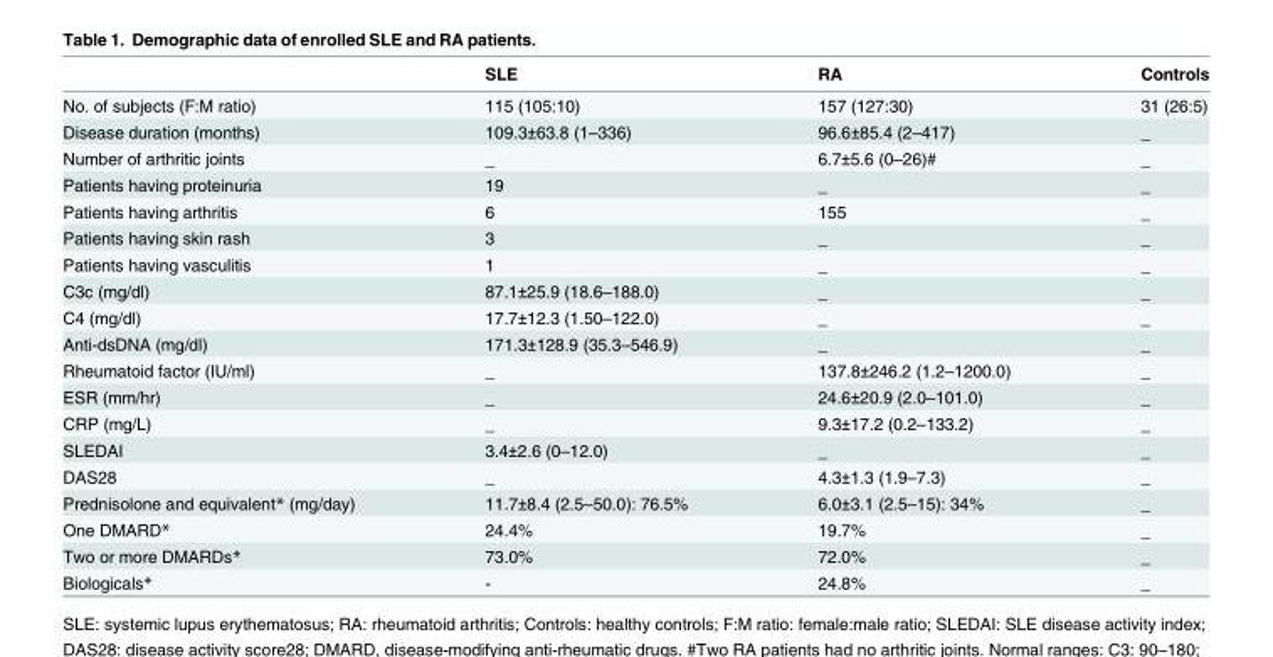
<table><thead><tr><td></td><td>SLE</td><td>RA</td><td>Controls</td></tr></thead><tbody><tr><td>No. of subjects (F:M ratio)</td><td>115 (105:10)</td><td>157 (127:30)</td><td>31 (26:5)</td></tr><tr><td>Disease duration (months)</td><td>109.3±63.8 (1–336)</td><td>96.6±85.4 (2–417)</td><td>_</td></tr><tr><td>Number of arthritic joints</td><td>_</td><td>6.7±5.6 (0–26)#</td><td>_</td></tr><tr><td>Patients having proteinuria</td><td>19</td><td>_</td><td>_</td></tr><tr><td>Patients having arthritis</td><td>6</td><td>155</td><td>_</td></tr><tr><td>Patients having skin rash</td><td>3</td><td>_</td><td>_</td></tr><tr><td>Patients having vasculitis</td><td>1</td><td>_</td><td>_</td></tr><tr><td>C3c (mg/dl)</td><td>87.1±25.9 (18.6–188.0)</td><td>_</td><td>_</td></tr><tr><td>C4 (mg/dl)</td><td>17.7±12.3 (1.50–122.0)</td><td>_</td><td>_</td></tr><tr><td>Anti-dsDNA (mg/dl)</td><td>171.3±128.9 (35.3–546.9)</td><td>_</td><td>_</td></tr><tr><td>Rheumatoid factor (IU/ml)</td><td>_</td><td>137.8±246.2 (1.2–1200.0)</td><td>_</td></tr><tr><td>ESR (mm/hr)</td><td>_</td><td>24.6±20.9 (2.0–101.0)</td><td>_</td></tr><tr><td>CRP (mg/L)</td><td>_</td><td>9.3±17.2 (0.2–133.2)</td><td>_</td></tr><tr><td>SLEDAI</td><td>3.4±2.6 (0–12.0)</td><td>_</td><td>_</td></tr><tr><td>DAS28</td><td>_</td><td>4.3±1.3 (1.9–7.3)</td><td>_</td></tr><tr><td>Prednisolone and equivalent* (mg/day)</td><td>11.7±8.4 (2.5–50.0): 76.5%</td><td>6.0±3.1 (2.5–15): 34%</td><td>_</td></tr><tr><td>One DMARD*</td><td>24.4%</td><td>19.7%</td><td>_</td></tr><tr><td>Two or more DMARDs*</td><td>73.0%</td><td>72.0%</td><td>_</td></tr><tr><td>Biologicals*</td><td>-</td><td>24.8%</td><td>_</td></tr></tbody></table>